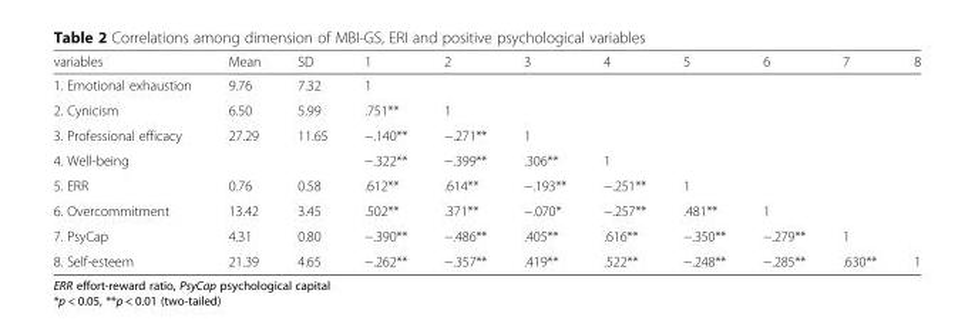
<table><thead><tr><td>variables</td><td>Mean</td><td>SD</td><td>1</td><td>2</td><td>3</td><td>4</td><td>5</td><td>6</td><td>7</td><td>8</td></tr></thead><tbody><tr><td>1. Emotional exhaustion</td><td>9.76</td><td>7.32</td><td>1</td><td></td><td></td><td></td><td></td><td></td><td></td><td></td></tr><tr><td>2. Cynicism</td><td>6.50</td><td>5.99</td><td>.751**</td><td>1</td><td></td><td></td><td></td><td></td><td></td><td></td></tr><tr><td>3. Professional efficacy</td><td>27.29</td><td>11.65</td><td>−.140**</td><td>−.271**</td><td>1</td><td></td><td></td><td></td><td></td><td></td></tr><tr><td>4. Well-being</td><td></td><td></td><td>−.322**</td><td>−.399**</td><td>.306**</td><td>1</td><td></td><td></td><td></td><td></td></tr><tr><td>5. ERR</td><td>0.76</td><td>0.58</td><td>.612**</td><td>.614**</td><td>−.193**</td><td>−.251**</td><td>1</td><td></td><td></td><td></td></tr><tr><td>6. Overcommitment</td><td>13.42</td><td>3.45</td><td>.502**</td><td>.371**</td><td>−.070*</td><td>−.257**</td><td>.481**</td><td>1</td><td></td><td></td></tr><tr><td>7. PsyCap</td><td>4.31</td><td>0.80</td><td>−.390**</td><td>−.486**</td><td>.405**</td><td>.616**</td><td>−.350**</td><td>−.279**</td><td>1</td><td></td></tr><tr><td>8. Self-esteem</td><td>21.39</td><td>4.65</td><td>−.262**</td><td>−.357**</td><td>.419**</td><td>.522**</td><td>−.248**</td><td>−.285**</td><td>.630**</td><td>1</td></tr></tbody></table>